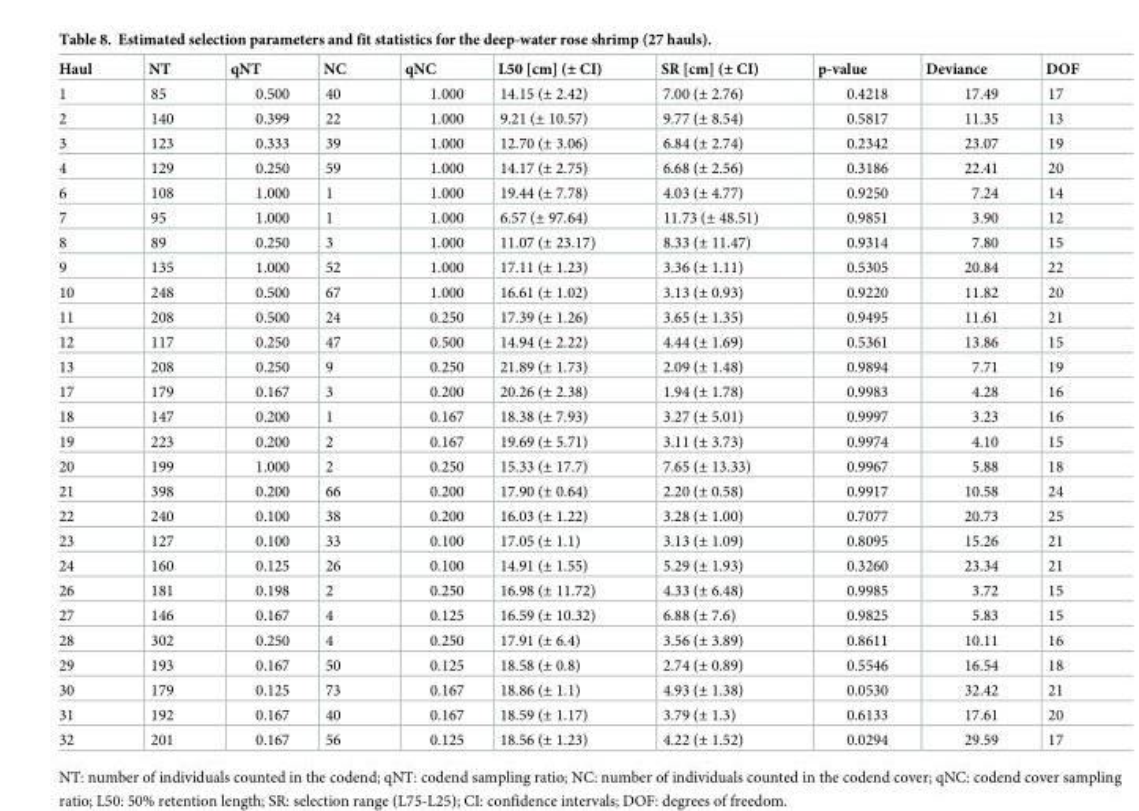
<table><thead><tr><td>Haul</td><td>NT</td><td>qNT</td><td>NC</td><td>qNC</td><td>L50 [cm] (± CI)</td><td>SR [cm] (± CI)</td><td>p-value</td><td>Deviance</td><td>DOF</td></tr></thead><tbody><tr><td>1</td><td>85</td><td>0.500</td><td>40</td><td>1.000</td><td>14.15 (± 2.42)</td><td>7.00 (± 2.76)</td><td>0.4218</td><td>17.49</td><td>17</td></tr><tr><td>2</td><td>140</td><td>0.399</td><td>22</td><td>1.000</td><td>9.21 (± 10.57)</td><td>9.77 (± 8.54)</td><td>0.5817</td><td>11.35</td><td>13</td></tr><tr><td>3</td><td>123</td><td>0.333</td><td>39</td><td>1.000</td><td>12.70 (± 3.06)</td><td>6.84 (± 2.74)</td><td>0.2342</td><td>23.07</td><td>19</td></tr><tr><td>4</td><td>129</td><td>0.250</td><td>59</td><td>1.000</td><td>14.17 (± 2.75)</td><td>6.68 (± 2.56)</td><td>0.3186</td><td>22.41</td><td>20</td></tr><tr><td>6</td><td>108</td><td>1.000</td><td>1</td><td>1.000</td><td>19.44 (± 7.78)</td><td>4.03 (± 4.77)</td><td>0.9250</td><td>7.24</td><td>14</td></tr><tr><td>7</td><td>95</td><td>1.000</td><td>1</td><td>1.000</td><td>6.57 (± 97.64)</td><td>11.73 (± 48.51)</td><td>0.9851</td><td>3.90</td><td>12</td></tr><tr><td>8</td><td>89</td><td>0.250</td><td>3</td><td>1.000</td><td>11.07 (± 23.17)</td><td>8.33 (± 11.47)</td><td>0.9314</td><td>7.80</td><td>15</td></tr><tr><td>9</td><td>135</td><td>1.000</td><td>52</td><td>1.000</td><td>17.11 (± 1.23)</td><td>3.36 (± 1.11)</td><td>0.5305</td><td>20.84</td><td>22</td></tr><tr><td>10</td><td>248</td><td>0.500</td><td>67</td><td>1.000</td><td>16.61 (± 1.02)</td><td>3.13 (± 0.93)</td><td>0.9220</td><td>11.82</td><td>20</td></tr><tr><td>11</td><td>208</td><td>0.500</td><td>24</td><td>0.250</td><td>17.39 (± 1.26)</td><td>3.65 (± 1.35)</td><td>0.9495</td><td>11.61</td><td>21</td></tr><tr><td>12</td><td>117</td><td>0.250</td><td>47</td><td>0.500</td><td>14.94 (± 2.22)</td><td>4.44 (± 1.69)</td><td>0.5361</td><td>13.86</td><td>15</td></tr><tr><td>13</td><td>208</td><td>0.250</td><td>9</td><td>0.250</td><td>21.89 (± 1.73)</td><td>2.09 (± 1.48)</td><td>0.9894</td><td>7.71</td><td>19</td></tr><tr><td>17</td><td>179</td><td>0.167</td><td>3</td><td>0.200</td><td>20.26 (± 2.38)</td><td>1.94 (± 1.78)</td><td>0.9983</td><td>4.28</td><td>16</td></tr><tr><td>18</td><td>147</td><td>0.200</td><td>1</td><td>0.167</td><td>18.38 (± 7.93)</td><td>3.27 (± 5.01)</td><td>0.9997</td><td>3.23</td><td>16</td></tr><tr><td>19</td><td>223</td><td>0.200</td><td>2</td><td>0.167</td><td>19.69 (± 5.71)</td><td>3.11 (± 3.73)</td><td>0.9974</td><td>4.10</td><td>15</td></tr><tr><td>20</td><td>199</td><td>1.000</td><td>2</td><td>0.250</td><td>15.33 (± 17.7)</td><td>7.65 (± 13.33)</td><td>0.9967</td><td>5.88</td><td>18</td></tr><tr><td>21</td><td>398</td><td>0.200</td><td>66</td><td>0.200</td><td>17.90 (± 0.64)</td><td>2.20 (± 0.58)</td><td>0.9917</td><td>10.58</td><td>24</td></tr><tr><td>22</td><td>240</td><td>0.100</td><td>38</td><td>0.200</td><td>16.03 (± 1.22)</td><td>3.28 (± 1.00)</td><td>0.7077</td><td>20.73</td><td>25</td></tr><tr><td>23</td><td>127</td><td>0.100</td><td>33</td><td>0.100</td><td>17.05 (± 1.1)</td><td>3.13 (± 1.09)</td><td>0.8095</td><td>15.26</td><td>21</td></tr><tr><td>24</td><td>160</td><td>0.125</td><td>26</td><td>0.100</td><td>14.91 (± 1.55)</td><td>5.29 (± 1.93)</td><td>0.3260</td><td>23.34</td><td>21</td></tr><tr><td>26</td><td>181</td><td>0.198</td><td>2</td><td>0.250</td><td>16.98 (± 11.72)</td><td>4.33 (± 6.48)</td><td>0.9985</td><td>3.72</td><td>15</td></tr><tr><td>27</td><td>146</td><td>0.167</td><td>4</td><td>0.125</td><td>16.59 (± 10.32)</td><td>6.88 (± 7.6)</td><td>0.9825</td><td>5.83</td><td>15</td></tr><tr><td>28</td><td>302</td><td>0.250</td><td>4</td><td>0.250</td><td>17.91 (± 6.4)</td><td>3.56 (± 3.89)</td><td>0.8611</td><td>10.11</td><td>16</td></tr><tr><td>29</td><td>193</td><td>0.167</td><td>50</td><td>0.125</td><td>18.58 (± 0.8)</td><td>2.74 (± 0.89)</td><td>0.5546</td><td>16.54</td><td>18</td></tr><tr><td>30</td><td>179</td><td>0.125</td><td>73</td><td>0.167</td><td>18.86 (± 1.1)</td><td>4.93 (± 1.38)</td><td>0.0530</td><td>32.42</td><td>21</td></tr><tr><td>31</td><td>192</td><td>0.167</td><td>40</td><td>0.167</td><td>18.59 (± 1.17)</td><td>3.79 (± 1.3)</td><td>0.6133</td><td>17.61</td><td>20</td></tr><tr><td>32</td><td>201</td><td>0.167</td><td>56</td><td>0.125</td><td>18.56 (± 1.23)</td><td>4.22 (± 1.52)</td><td>0.0294</td><td>29.59</td><td>17</td></tr></tbody></table>